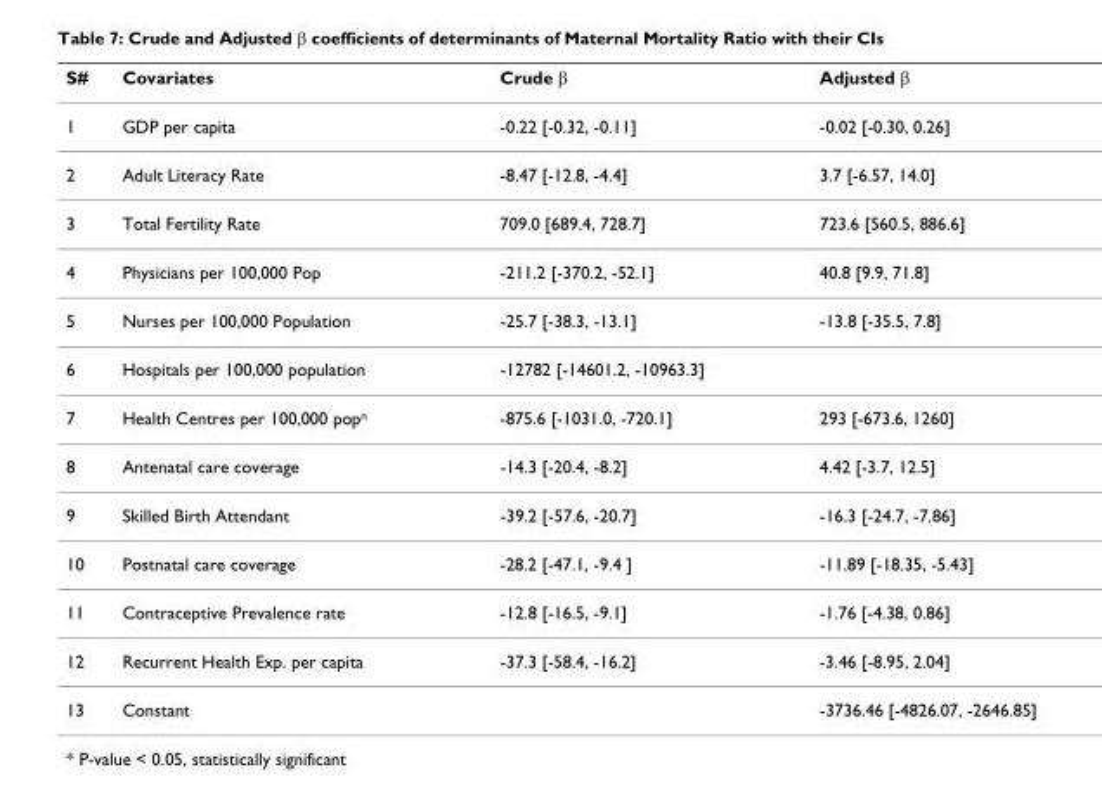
<table><thead><tr><td>S#</td><td>Covariates</td><td>Crude β</td><td>Adjusted β</td></tr></thead><tbody><tr><td>1</td><td>GDP per capita</td><td>-0.22 [-0.32, -0.11]</td><td>-0.02 [-0.30, 0.26]</td></tr><tr><td>2</td><td>Adult Literacy Rate</td><td>-8.47 [-12.8, -4.4]</td><td>3.7 [-6.57, 14.0]</td></tr><tr><td>3</td><td>Total Fertility Rate</td><td>709.0 [689.4, 728.7]</td><td>723.6 [560.5, 886.6]</td></tr><tr><td>4</td><td>Physicians per 100,000 Pop</td><td>-211.2 [-370.2, -52.1]</td><td>40.8 [9.9, 71.8]</td></tr><tr><td>5</td><td>Nurses per 100,000 Population</td><td>-25.7 [-38.3, -13.1]</td><td>-13.8 [-35.5, 7.8]</td></tr><tr><td>6</td><td>Hospitals per 100,000 population</td><td>-12782 [-14601.2, -10963.3]</td><td></td></tr><tr><td>7</td><td>Health Centres per 100,000 pop<sup>n</sup></td><td>-875.6 [-1031.0, -720.1]</td><td>293 [-673.6, 1260]</td></tr><tr><td>8</td><td>Antenatal care coverage</td><td>-14.3 [-20.4, -8.2]</td><td>4.42 [-3.7, 12.5]</td></tr><tr><td>9</td><td>Skilled Birth Attendant</td><td>-39.2 [-57.6, -20.7]</td><td>-16.3 [-24.7, -7.86]</td></tr><tr><td>10</td><td>Postnatal care coverage</td><td>-28.2 [-47.1, -9.4 ]</td><td>-11.89 [-18.35, -5.43]</td></tr><tr><td>11</td><td>Contraceptive Prevalence rate</td><td>-12.8 [-16.5, -9.1]</td><td>-1.76 [-4.38, 0.86]</td></tr><tr><td>12</td><td>Recurrent Health Exp. per capita</td><td>-37.3 [-58.4, -16.2]</td><td>-3.46 [-8.95, 2.04]</td></tr><tr><td>13</td><td>Constant</td><td></td><td>-3736.46 [-4826.07, -2646.85]</td></tr></tbody></table>